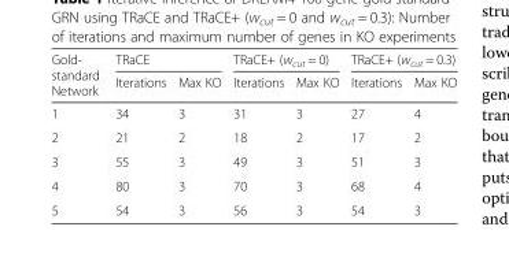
<table><thead><tr><td rowspan="2">Gold- standard Network</td><td colspan="2">TRaCE</td><td colspan="2">TRaCE+ (w<sub>cut</sub> = 0)</td><td colspan="2">TRaCE+ (w<sub>cut</sub> = 0.3)</td></tr><tr><td>Iterations</td><td>Max KO</td><td>Iterations</td><td>Max KO</td><td>Iterations</td><td>Max KO</td></tr></thead><tbody><tr><td>1</td><td>34</td><td>3</td><td>31</td><td>3</td><td>27</td><td>4</td></tr><tr><td>2</td><td>21</td><td>2</td><td>18</td><td>2</td><td>17</td><td>2</td></tr><tr><td>3</td><td>55</td><td>3</td><td>49</td><td>3</td><td>51</td><td>3</td></tr><tr><td>4</td><td>80</td><td>3</td><td>70</td><td>3</td><td>68</td><td>4</td></tr><tr><td>5</td><td>54</td><td>3</td><td>56</td><td>3</td><td>54</td><td>3</td></tr></tbody></table>